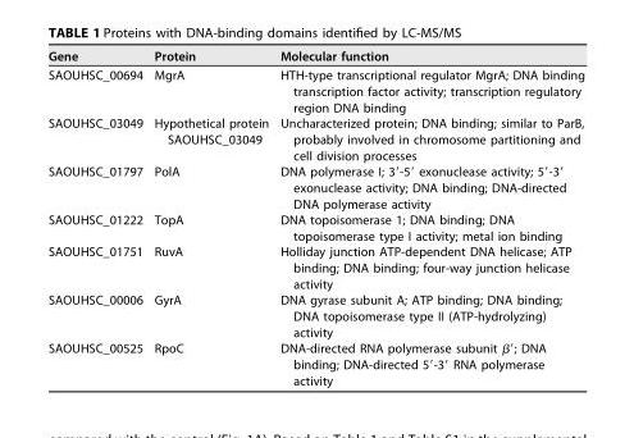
<table><thead><tr><td>Gene</td><td>Protein</td><td>Molecular function</td></tr></thead><tbody><tr><td>SAOUHSC_00694</td><td>MgrA</td><td>HTH-type transcriptional regulator MgrA; DNA binding transcription factor activity; transcription regulatory region DNA binding</td></tr><tr><td>SAOUHSC_03049</td><td>Hypothetical protein SAOUHSC_03049</td><td>Uncharacterized protein; DNA binding; similar to ParB, probably involved in chromosome partitioning and cell division processes</td></tr><tr><td>SAOUHSC_01797</td><td>PolA</td><td>DNA polymerase I; 3=-5= exonuclease activity; 5=-3= exonuclease activity; DNA binding; DNA-directed DNA polymerase activity</td></tr><tr><td>SAOUHSC_01222</td><td>TopA</td><td>DNA topoisomerase 1; DNA binding; DNA topoisomerase type I activity; metal ion binding</td></tr><tr><td>SAOUHSC_01751</td><td>RuvA</td><td>Holliday junction ATP-dependent DNA helicase; ATP binding; DNA binding; four-way junction helicase activity</td></tr><tr><td>SAOUHSC_00006</td><td>GyrA</td><td>DNA gyrase subunit A; ATP binding; DNA binding; DNA topoisomerase type II (ATP-hydrolyzing) activity</td></tr><tr><td>SAOUHSC_00525</td><td>RpoC</td><td>DNA-directed RNA polymerase subunit �=; DNA binding; DNA-directed 5=-3= RNA polymerase activity</td></tr></tbody></table>